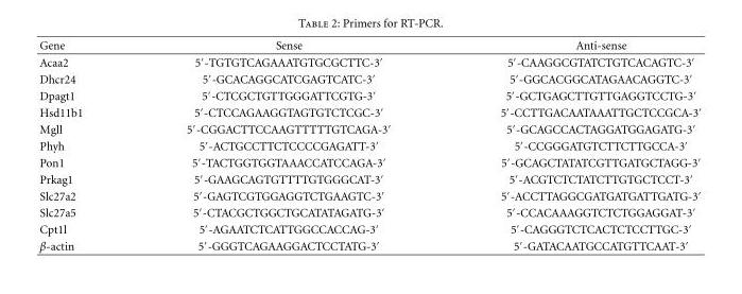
<table><thead><tr><td>Gene</td><td>Sense</td><td>Anti-sense</td></tr></thead><tbody><tr><td>Acaa2</td><td>5′-TGTGTCAGAAATGTGCGCTTC-3′</td><td>5′-CAAGGCGTATCTGTCACAGTC-3′</td></tr><tr><td>Dhcr24</td><td>5′-GCACAGGCATCGAGTCATC-3′</td><td>5′-GGCACGGCATAGAACAGGTC-3′</td></tr><tr><td>Dpagt1</td><td>5′-CTCGCTGTTGGGATTCGTG-3′</td><td>5′-GCTGAGCTTGTTGAGGTCCTG-3′</td></tr><tr><td>Hsd11b1</td><td>5′-CTCCAGAAGGTAGTGTCTCGC-3′</td><td>5′-CCTTGACAATAAATTGCTCCGCA-3′</td></tr><tr><td>Mgll</td><td>5′-CGGACTTCCAAGTTTTTGTCAGA-3′</td><td>5′-GCAGCCACTAGGATGGAGATG-3′</td></tr><tr><td>Phyh</td><td>5′-ACTGCCTTCTCCCCGAGATT-3′</td><td>5′-CCGGGATGTCTTCTTGCCA-3′</td></tr><tr><td>Pon1</td><td>5′-TACTGGTGGTAAACCATCCAGA-3′</td><td>5′-GCAGCTATATCGTTGATGCTAGG-3′</td></tr><tr><td>Prkag1</td><td>5′-GAAGCAGTGTTTTGTGGGCAT-3′</td><td>5′-ACGTCTCTATCTTGTGCTCCT-3′</td></tr><tr><td>Slc27a2</td><td>5′-GAGTCGTGGAGGTCTGAAGTC-3′</td><td>5′-ACCTTAGGCGATGATGATTGATG-3′</td></tr><tr><td>Slc27a5</td><td>5′-CTACGCTGGCTGCATATAGATG-3′</td><td>5′-CCACAAAGGTCTCTGGAGGAT-3′</td></tr><tr><td>Cpt1l</td><td>5′-AGAATCTCATTGGCCACCAG-3′</td><td>5′-CAGGGTCTCACTCTCCTTGC-3′</td></tr><tr><td>β-actin</td><td>5′-GGGTCAGAAGGACTCCTATG-3′</td><td>5′-GATACAATGCCATGTTCAAT-3′</td></tr></tbody></table>